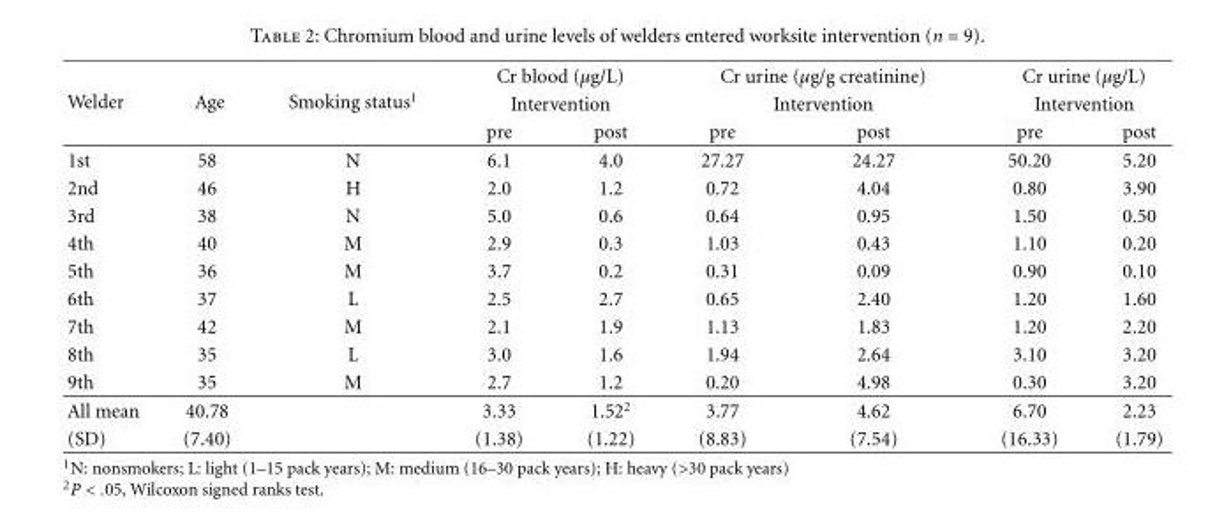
<table><thead><tr><td rowspan="3">Welder</td><td rowspan="3">Age</td><td rowspan="3">Smoking status<sup>1</sup></td><td rowspan="2" colspan="2">Cr blood (μg/L) Intervention</td><td rowspan="2" colspan="2">Cr urine (μg/g creatinine) Intervention</td><td rowspan="2" colspan="2">Cr urine (μg/L) Intervention</td></tr><tr></tr><tr><td>pre</td><td>post</td><td>pre</td><td>post</td><td>pre</td><td>post</td></tr></thead><tbody><tr><td>1st</td><td>58</td><td>N</td><td>6.1</td><td>4.0</td><td>27.27</td><td>24.27</td><td>50.20</td><td>5.20</td></tr><tr><td>2nd</td><td>46</td><td>H</td><td>2.0</td><td>1.2</td><td>0.72</td><td>4.04</td><td>0.80</td><td>3.90</td></tr><tr><td>3rd</td><td>38</td><td>N</td><td>5.0</td><td>0.6</td><td>0.64</td><td>0.95</td><td>1.50</td><td>0.50</td></tr><tr><td>4th</td><td>40</td><td>M</td><td>2.9</td><td>0.3</td><td>1.03</td><td>0.43</td><td>1.10</td><td>0.20</td></tr><tr><td>5th</td><td>36</td><td>M</td><td>3.7</td><td>0.2</td><td>0.31</td><td>0.09</td><td>0.90</td><td>0.10</td></tr><tr><td>6th</td><td>37</td><td>L</td><td>2.5</td><td>2.7</td><td>0.65</td><td>2.40</td><td>1.20</td><td>1.60</td></tr><tr><td>7th</td><td>42</td><td>M</td><td>2.1</td><td>1.9</td><td>1.13</td><td>1.83</td><td>1.20</td><td>2.20</td></tr><tr><td>8th</td><td>35</td><td>L</td><td>3.0</td><td>1.6</td><td>1.94</td><td>2.64</td><td>3.10</td><td>3.20</td></tr><tr><td>9th</td><td>35</td><td>M</td><td>2.7</td><td>1.2</td><td>0.20</td><td>4.98</td><td>0.30</td><td>3.20</td></tr><tr><td>All mean</td><td>40.78</td><td></td><td>3.33</td><td>1.52<sup>2</sup></td><td>3.77</td><td>4.62</td><td>6.70</td><td>2.23</td></tr><tr><td>(SD)</td><td>(7.40)</td><td></td><td>(1.38)</td><td>(1.22)</td><td>(8.83)</td><td>(7.54)</td><td>(16.33)</td><td>(1.79)</td></tr></tbody></table>